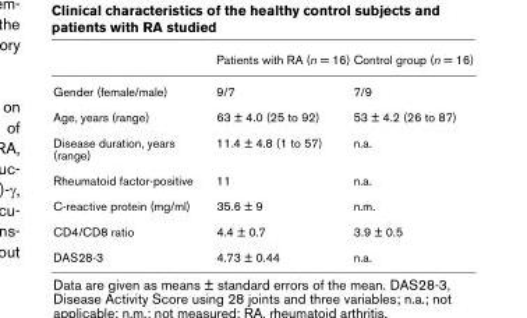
<table><thead><tr><td></td><td>Patients with RA (n = 16)</td><td>Control group (n = 16)</td></tr></thead><tbody><tr><td>Gender (female/male)</td><td>9/7</td><td>7/9</td></tr><tr><td>Age, years (range)</td><td>63 ± 4.0 (25 to 92)</td><td>53 ± 4.2 (26 to 87)</td></tr><tr><td>Disease duration, years (range)</td><td>11.4 ± 4.8 (1 to 57)</td><td>n.a.</td></tr><tr><td>Rheumatoid factor-positive</td><td>11</td><td>n.a.</td></tr><tr><td>C-reactive protein (mg/ml)</td><td>35.6 ± 9</td><td>n.m.</td></tr><tr><td>CD4/CD8 ratio</td><td>4.4 ± 0.7</td><td>3.9 ± 0.5</td></tr><tr><td>DAS28-3</td><td>4.73 ± 0.44</td><td>n.a.</td></tr></tbody></table>